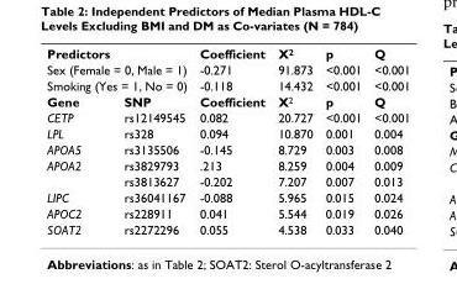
<table><tbody><tr><td>Predictors</td><td></td><td>Coefficient</td><td>X<sup>2</sup></td><td>p</td><td>Q</td></tr><tr><td colspan="2">Sex (Female = 0, Male = 1)</td><td>-0.271</td><td>91.873</td><td>&lt;0.001</td><td>&lt;0.001</td></tr><tr><td colspan="2">Smoking (Yes = 1, No = 0)</td><td>-0.118</td><td>14.432</td><td>&lt;0.001</td><td>&lt;0.001</td></tr><tr><td>Gene</td><td>SNP</td><td>Coefficient</td><td>X<sup>2</sup></td><td>p</td><td>Q</td></tr><tr><td>CETP</td><td>rs12149545</td><td>0.082</td><td>20.727</td><td>&lt;0.001</td><td>&lt;0.001</td></tr><tr><td>LPL</td><td>rs328</td><td>0.094</td><td>10.870</td><td>0.001</td><td>0.004</td></tr><tr><td>APOA5</td><td>rs3135506</td><td>-0.145</td><td>8.729</td><td>0.003</td><td>0.008</td></tr><tr><td rowspan="2">APOA2</td><td>rs3829793</td><td>.213</td><td>8.259</td><td>0.004</td><td>0.009</td></tr><tr><td>rs3813627</td><td>-0.202</td><td>7.207</td><td>0.007</td><td>0.013</td></tr><tr><td>LIPC</td><td>rs36041167</td><td>-0.088</td><td>5.965</td><td>0.015</td><td>0.024</td></tr><tr><td>APOC2</td><td>rs228911</td><td>0.041</td><td>5.544</td><td>0.019</td><td>0.026</td></tr><tr><td>SOAT2</td><td>rs2272296</td><td>0.055</td><td>4.538</td><td>0.033</td><td>0.040</td></tr></tbody></table>